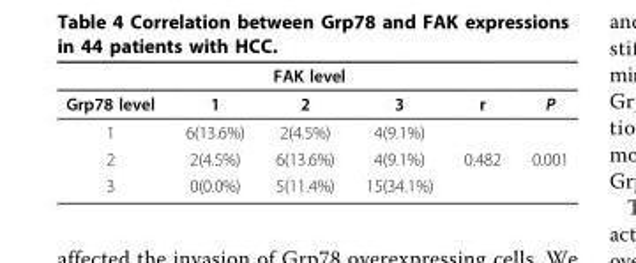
<table><thead><tr><td rowspan="2">Grp78 level</td><td colspan="3">FAK level</td><td rowspan="2">r</td><td rowspan="2">P</td></tr><tr><td>1</td><td>2</td><td>3</td></tr></thead><tbody><tr><td>1</td><td>6(13.6%)</td><td>2(4.5%)</td><td>4(9.1%)</td><td></td><td></td></tr><tr><td>2</td><td>2(4.5%)</td><td>6(13.6%)</td><td>4(9.1%)</td><td>0.482</td><td>0.001</td></tr><tr><td>3</td><td>0(0.0%)</td><td>5(11.4%)</td><td>15(34.1%)</td><td></td><td></td></tr></tbody></table>